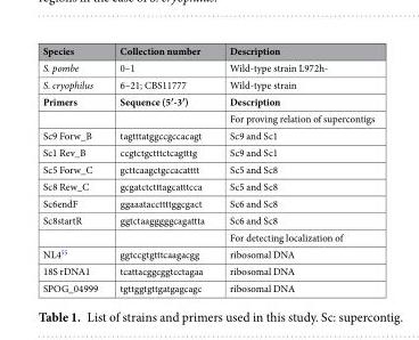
<table><thead><tr><td>Species</td><td>Collection number</td><td>Description</td></tr></thead><tbody><tr><td>S. pombe</td><td>0–1</td><td>Wild-type strain L972h-</td></tr><tr><td>S. cryophilus</td><td>6–21; CBS11777</td><td>Wild-type strain</td></tr><tr><td rowspan="2">Primers</td><td>Sequence (5′-3′)</td><td>Description</td></tr><tr><td></td><td>For proving relation of supercontigs</td></tr><tr><td>Sc9 Forw_B</td><td>tagtttatggccgccacagt</td><td>Sc9 and Sc1</td></tr><tr><td>Sc1 Rev_B</td><td>ccgtctgctttctcagtttg</td><td>Sc9 and Sc1</td></tr><tr><td>Sc5 Forw_C</td><td>gcttcaagctgccacatttt</td><td>Sc5 and Sc8</td></tr><tr><td>Sc8 Rew_C</td><td>gcgatctctttagcatttcca</td><td>Sc5 and Sc8</td></tr><tr><td>Sc6endF</td><td>ggaaataccttttggcgact</td><td>Sc6 and Sc8</td></tr><tr><td rowspan="2">Sc8startR</td><td>ggtctaagggggcagattta</td><td>Sc6 and Sc8</td></tr><tr><td></td><td>For detecting localization of</td></tr><tr><td>NL4<sup>55</sup></td><td>ggtccgtgtttcaagacgg</td><td>ribosomal DNA</td></tr><tr><td>18S rDNA1</td><td>tcattacggcggtcctagaa</td><td>ribosomal DNA</td></tr><tr><td>SPOG_04999</td><td>tgttggtgttgatgagcagc</td><td>ribosomal DNA</td></tr></tbody></table>